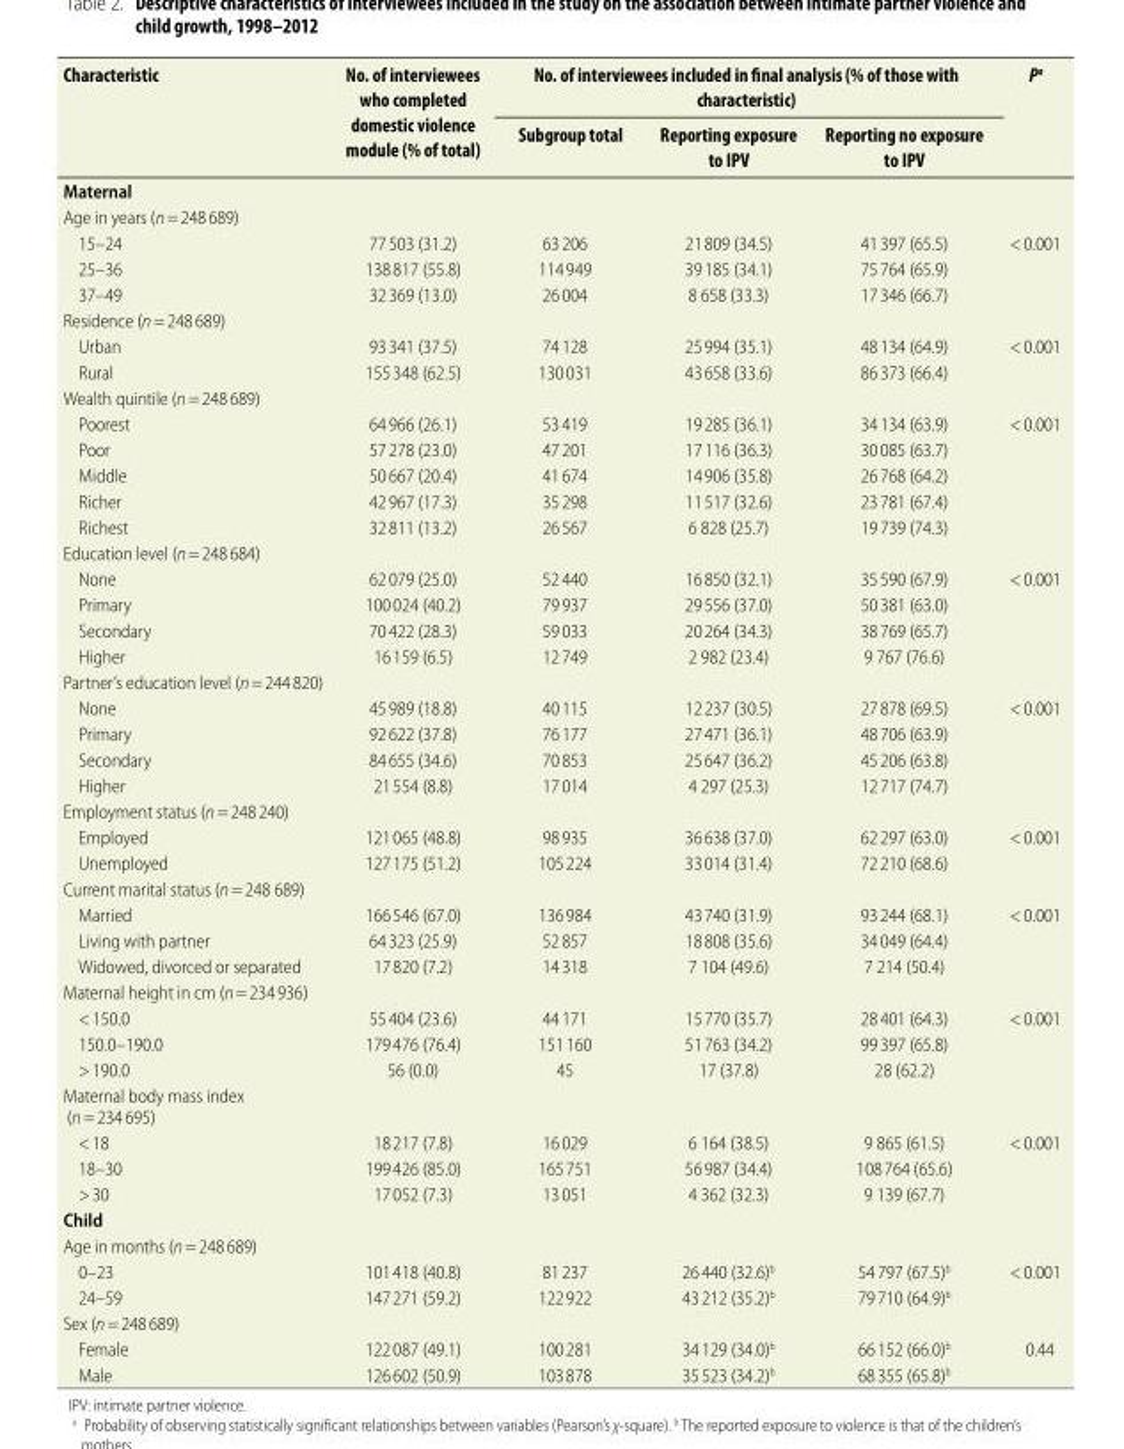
<table><thead><tr><td rowspan="2">Characteristic</td><td rowspan="2">No. of interviewees who completed domestic violence module (% of total)</td><td colspan="3">No. of interviewees included in final analysis (% of those with characteristic)</td><td rowspan="2">P<sup>a</sup></td></tr><tr><td>Subgroup total</td><td>Reporting exposure to IPV</td><td>Reporting no exposure to IPV</td></tr></thead><tbody><tr><td colspan="6">Maternal</td></tr><tr><td colspan="6">Age in years (n = 248 689)</td></tr><tr><td>15–24</td><td>77 503 (31.2)</td><td>63 206</td><td>21 809 (34.5)</td><td>41 397 (65.5)</td><td rowspan="3">&lt; 0.001</td></tr><tr><td>25–36</td><td>138 817 (55.8)</td><td>114 949</td><td>39 185 (34.1)</td><td>75 764 (65.9)</td></tr><tr><td>37–49</td><td>32 369 (13.0)</td><td>26 004</td><td>8 658 (33.3)</td><td>17 346 (66.7)</td></tr><tr><td colspan="6">Residence (n = 248 689)</td></tr><tr><td>Urban</td><td>93 341 (37.5)</td><td>74 128</td><td>25 994 (35.1)</td><td>48 134 (64.9)</td><td rowspan="2">&lt; 0.001</td></tr><tr><td>Rural</td><td>155 348 (62.5)</td><td>130 031</td><td>43 658 (33.6)</td><td>86 373 (66.4)</td></tr><tr><td colspan="6">Wealth quintile (n = 248 689)</td></tr><tr><td>Poorest</td><td>64 966 (26.1)</td><td>53 419</td><td>19 285 (36.1)</td><td>34 134 (63.9)</td><td rowspan="5">&lt; 0.001</td></tr><tr><td>Poor</td><td>57 278 (23.0)</td><td>47 201</td><td>17 116 (36.3)</td><td>30 085 (63.7)</td></tr><tr><td>Middle</td><td>50 667 (20.4)</td><td>41 674</td><td>14 906 (35.8)</td><td>26 768 (64.2)</td></tr><tr><td>Richer</td><td>42 967 (17.3)</td><td>35 298</td><td>11 517 (32.6)</td><td>23 781 (67.4)</td></tr><tr><td>Richest</td><td>32 811 (13.2)</td><td>26 567</td><td>6 828 (25.7)</td><td>19 739 (74.3)</td></tr><tr><td colspan="6">Education level (n = 248 684)</td></tr><tr><td>None</td><td>62 079 (25.0)</td><td>52 440</td><td>16 850 (32.1)</td><td>35 590 (67.9)</td><td rowspan="4">&lt; 0.001</td></tr><tr><td>Primary</td><td>100 024 (40.2)</td><td>79 937</td><td>29 556 (37.0)</td><td>50 381 (63.0)</td></tr><tr><td>Secondary</td><td>70 422 (28.3)</td><td>59 033</td><td>20 264 (34.3)</td><td>38 769 (65.7)</td></tr><tr><td>Higher</td><td>16 159 (6.5)</td><td>12 749</td><td>2 982 (23.4)</td><td>9 767 (76.6)</td></tr><tr><td colspan="6">Partner’s education level (n = 244 820)</td></tr><tr><td>None</td><td>45 989 (18.8)</td><td>40 115</td><td>12 237 (30.5)</td><td>27 878 (69.5)</td><td rowspan="4">&lt; 0.001</td></tr><tr><td>Primary</td><td>92 622 (37.8)</td><td>76 177</td><td>27 471 (36.1)</td><td>48 706 (63.9)</td></tr><tr><td>Secondary</td><td>84 655 (34.6)</td><td>70 853</td><td>25 647 (36.2)</td><td>45 206 (63.8)</td></tr><tr><td>Higher</td><td>21 554 (8.8)</td><td>17 014</td><td>4 297 (25.3)</td><td>12 717 (74.7)</td></tr><tr><td colspan="6">Employment status (n = 248 240)</td></tr><tr><td>Employed</td><td>121 065 (48.8)</td><td>98 935</td><td>36 638 (37.0)</td><td>62 297 (63.0)</td><td rowspan="2">&lt; 0.001</td></tr><tr><td>Unemployed</td><td>127 175 (51.2)</td><td>105 224</td><td>33 014 (31.4)</td><td>72 210 (68.6)</td></tr><tr><td colspan="6">Current marital status (n = 248 689)</td></tr><tr><td>Married</td><td>166 546 (67.0)</td><td>136 984</td><td>43 740 (31.9)</td><td>93 244 (68.1)</td><td rowspan="3">&lt; 0.001</td></tr><tr><td>Living with partner</td><td>64 323 (25.9)</td><td>52 857</td><td>18 808 (35.6)</td><td>34 049 (64.4)</td></tr><tr><td>Widowed, divorced or separated</td><td>17 820 (7.2)</td><td>14 318</td><td>7 104 (49.6)</td><td>7 214 (50.4)</td></tr><tr><td colspan="6">Maternal height in cm (n = 234 936)</td></tr><tr><td>&lt; 150.0</td><td>55 404 (23.6)</td><td>44 171</td><td>15 770 (35.7)</td><td>28 401 (64.3)</td><td rowspan="3">&lt; 0.001</td></tr><tr><td>150.0–190.0</td><td>179 476 (76.4)</td><td>151 160</td><td>51 763 (34.2)</td><td>99 397 (65.8)</td></tr><tr><td>&gt; 190.0</td><td>56 (0.0)</td><td>45</td><td>17 (37.8)</td><td>28 (62.2)</td></tr><tr><td colspan="6">Maternal body mass index (n = 234 695)</td></tr><tr><td>&lt; 18</td><td>18 217 (7.8)</td><td>16 029</td><td>6 164 (38.5)</td><td>9 865 (61.5)</td><td rowspan="3">&lt; 0.001</td></tr><tr><td>18–30</td><td>199 426 (85.0)</td><td>165 751</td><td>56 987 (34.4)</td><td>108 764 (65.6)</td></tr><tr><td>&gt; 30</td><td>17 052 (7.3)</td><td>13 051</td><td>4 362 (32.3)</td><td>9 139 (67.7)</td></tr><tr><td colspan="6">Child</td></tr><tr><td colspan="6">Age in months (n = 248 689)</td></tr><tr><td>0–23</td><td>101 418 (40.8)</td><td>81 237</td><td>26 440 (32.6)<sup>b</sup></td><td>54 797 (67.5)<sup>b</sup></td><td rowspan="2">&lt; 0.001</td></tr><tr><td>24–59</td><td>147 271 (59.2)</td><td>122 922</td><td>43 212 (35.2)<sup>b</sup></td><td>79 710 (64.9)<sup>b</sup></td></tr><tr><td colspan="6">Sex (n = 248 689)</td></tr><tr><td>Female</td><td>122 087 (49.1)</td><td>100 281</td><td>34 129 (34.0)<sup>b</sup></td><td>66 152 (66.0)<sup>b</sup></td><td rowspan="2">0.44</td></tr><tr><td>Male</td><td>126 602 (50.9)</td><td>103 878</td><td>35 523 (34.2)<sup>b</sup></td><td>68 355 (65.8)<sup>b</sup></td></tr></tbody></table>